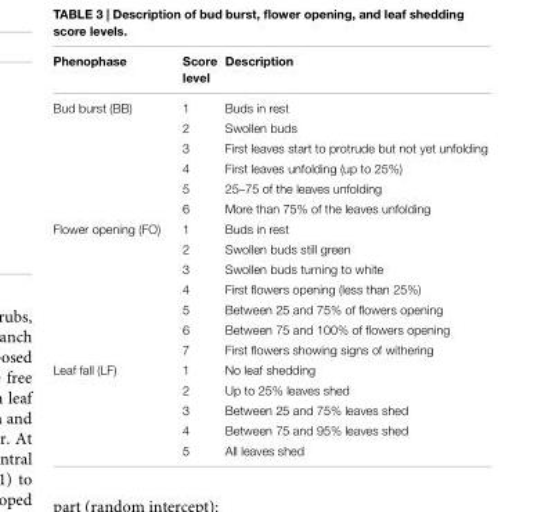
<table><thead><tr><td>Phenophase</td><td>Score level</td><td>Description</td></tr></thead><tbody><tr><td rowspan="6">Bud burst (BB)</td><td>1</td><td>Buds in rest</td></tr><tr><td>2</td><td>Swollen buds</td></tr><tr><td>3</td><td>First leaves start to protrude but not yet unfolding</td></tr><tr><td>4</td><td>First leaves unfolding (up to 25%)</td></tr><tr><td>5</td><td>25–75 of the leaves unfolding</td></tr><tr><td>6</td><td>More than 75% of the leaves unfolding</td></tr><tr><td rowspan="7">Flower opening (FO)</td><td>1</td><td>Buds in rest</td></tr><tr><td>2</td><td>Swollen buds still green</td></tr><tr><td>3</td><td>Swollen buds turning to white</td></tr><tr><td>4</td><td>First flowers opening (less than 25%)</td></tr><tr><td>5</td><td>Between 25 and 75% of flowers opening</td></tr><tr><td>6</td><td>Between 75 and 100% of flowers opening</td></tr><tr><td>7</td><td>First flowers showing signs of withering</td></tr><tr><td rowspan="5">Leaf fall (LF)</td><td>1</td><td>No leaf shedding</td></tr><tr><td>2</td><td>Up to 25% leaves shed</td></tr><tr><td>3</td><td>Between 25 and 75% leaves shed</td></tr><tr><td>4</td><td>Between 75 and 95% leaves shed</td></tr><tr><td>5</td><td>All leaves shed</td></tr></tbody></table>